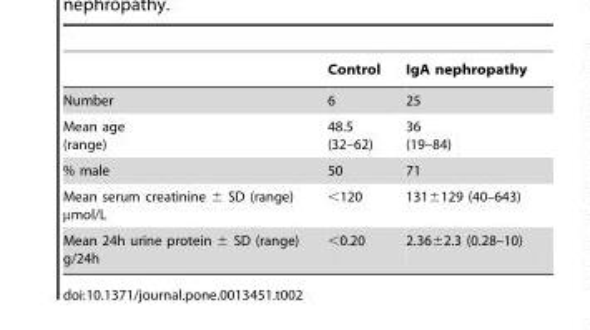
<table><thead><tr><td></td><td>Control</td><td>IgA nephropathy</td></tr></thead><tbody><tr><td>Number</td><td>6</td><td>25</td></tr><tr><td>Mean age (range)</td><td>48.5 (32–62)</td><td>36 (19–84)</td></tr><tr><td>% male</td><td>50</td><td>71</td></tr><tr><td>Mean serum creatinine ± SD (range) µmol/L</td><td>&lt;120</td><td>131±129 (40–643)</td></tr><tr><td>Mean 24h urine protein ± SD (range) g/24h</td><td>&lt;0.20</td><td>2.36±2.3 (0.28–10)</td></tr></tbody></table>